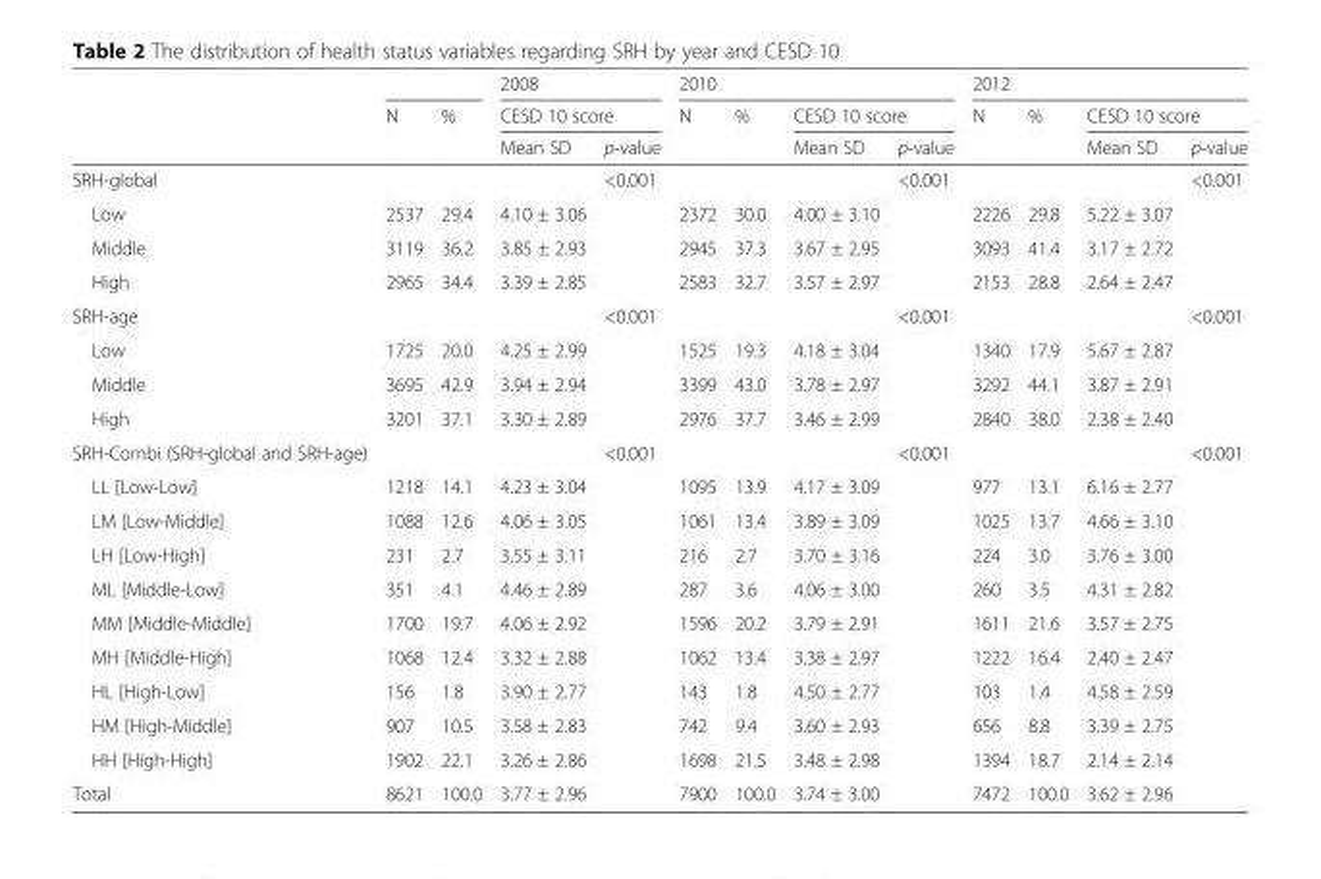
<table><thead><tr><td rowspan="3"></td><td rowspan="3">N</td><td rowspan="3">%</td><td rowspan="2" colspan="2">2008 CESD 10 score</td><td colspan="4">2010</td><td colspan="4">2012</td></tr><tr><td rowspan="2">N</td><td rowspan="2">%</td><td colspan="2">CESD 10 score</td><td rowspan="2">N</td><td rowspan="2">%</td><td colspan="2">CESD 10 score</td></tr><tr><td>Mean SD</td><td>p-value</td><td>Mean SD</td><td>p-value</td><td>Mean SD</td><td>p-value</td></tr></thead><tbody><tr><td>SRH-global</td><td></td><td></td><td></td><td>&lt;0.001</td><td></td><td></td><td></td><td>&lt;0.001</td><td></td><td></td><td></td><td>&lt;0.001</td></tr><tr><td>Low</td><td>2537</td><td>29.4</td><td>4.10 ± 3.06</td><td></td><td>2372</td><td>30.0</td><td>4.00 ± 3.10</td><td></td><td>2226</td><td>29.8</td><td>5.22 ± 3.07</td><td></td></tr><tr><td>Middle</td><td>3119</td><td>36.2</td><td>3.85 ± 2.93</td><td></td><td>2945</td><td>37.3</td><td>3.67 ± 2.95</td><td></td><td>3093</td><td>41.4</td><td>3.17 ± 2.72</td><td></td></tr><tr><td>High</td><td>2965</td><td>34.4</td><td>3.39 ± 2.85</td><td></td><td>2583</td><td>32.7</td><td>3.57 ± 2.97</td><td></td><td>2153</td><td>28.8</td><td>2.64 ± 2.47</td><td></td></tr><tr><td>SRH-age</td><td></td><td></td><td></td><td>&lt;0.001</td><td></td><td></td><td></td><td>&lt;0.001</td><td></td><td></td><td></td><td>&lt;0.001</td></tr><tr><td>Low</td><td>1725</td><td>20.0</td><td>4.25 ± 2.99</td><td></td><td>1525</td><td>19.3</td><td>4.18 ± 3.04</td><td></td><td>1340</td><td>17.9</td><td>5.67 ± 2.87</td><td></td></tr><tr><td>Middle</td><td>3695</td><td>42.9</td><td>3.94 ± 2.94</td><td></td><td>3399</td><td>43.0</td><td>3.78 ± 2.97</td><td></td><td>3292</td><td>44.1</td><td>3.87 ± 2.91</td><td></td></tr><tr><td>High</td><td>3201</td><td>37.1</td><td>3.30 ± 2.89</td><td></td><td>2976</td><td>37.7</td><td>3.46 ± 2.99</td><td></td><td>2840</td><td>38.0</td><td>2.38 ± 2.40</td><td></td></tr><tr><td>SRH-Combi (SRH-global and SRH-age)</td><td></td><td></td><td></td><td>&lt;0.001</td><td></td><td></td><td></td><td>&lt;0.001</td><td></td><td></td><td></td><td>&lt;0.001</td></tr><tr><td>LL [Low-Low]</td><td>1218</td><td>14.1</td><td>4.23 ± 3.04</td><td></td><td>1095</td><td>13.9</td><td>4.17 ± 3.09</td><td></td><td>977</td><td>13.1</td><td>6.16 ± 2.77</td><td></td></tr><tr><td>LM [Low-Middle]</td><td>1088</td><td>12.6</td><td>4.06 ± 3.05</td><td></td><td>1061</td><td>13.4</td><td>3.89 ± 3.09</td><td></td><td>1025</td><td>13.7</td><td>4.66 ± 3.10</td><td></td></tr><tr><td>LH [Low-High]</td><td>231</td><td>2.7</td><td>3.55 ± 3.11</td><td></td><td>216</td><td>2.7</td><td>3.70 ± 3.16</td><td></td><td>224</td><td>3.0</td><td>3.76 ± 3.00</td><td></td></tr><tr><td>ML [Middle-Low]</td><td>351</td><td>4.1</td><td>4.46 ± 2.89</td><td></td><td>287</td><td>3.6</td><td>4.06 ± 3.00</td><td></td><td>260</td><td>3.5</td><td>4.31 ± 2.82</td><td></td></tr><tr><td>MM [Middle-Middle]</td><td>1700</td><td>19.7</td><td>4.06 ± 2.92</td><td></td><td>1596</td><td>20.2</td><td>3.79 ± 2.91</td><td></td><td>1611</td><td>21.6</td><td>3.57 ± 2.75</td><td></td></tr><tr><td>MH [Middle-High]</td><td>1068</td><td>12.4</td><td>3.32 ± 2.88</td><td></td><td>1062</td><td>13.4</td><td>3.38 ± 2.97</td><td></td><td>1222</td><td>16.4</td><td>2.40 ± 2.47</td><td></td></tr><tr><td>HL [High-Low]</td><td>156</td><td>1.8</td><td>3.90 ± 2.77</td><td></td><td>143</td><td>1.8</td><td>4.50 ± 2.77</td><td></td><td>103</td><td>1.4</td><td>4.58 ± 2.59</td><td></td></tr><tr><td>HM [High-Middle]</td><td>907</td><td>10.5</td><td>3.58 ± 2.83</td><td></td><td>742</td><td>9.4</td><td>3.60 ± 2.93</td><td></td><td>656</td><td>8.8</td><td>3.39 ± 2.75</td><td></td></tr><tr><td>HH [High-High]</td><td>1902</td><td>22.1</td><td>3.26 ± 2.86</td><td></td><td>1698</td><td>21.5</td><td>3.48 ± 2.98</td><td></td><td>1394</td><td>18.7</td><td>2.14 ± 2.14</td><td></td></tr><tr><td>Total</td><td>8621</td><td>100.0</td><td>3.77 ± 2.96</td><td></td><td>7900</td><td>100.0</td><td>3.74 ± 3.00</td><td></td><td>7472</td><td>100.0</td><td>3.62 ± 2.96</td><td></td></tr></tbody></table>